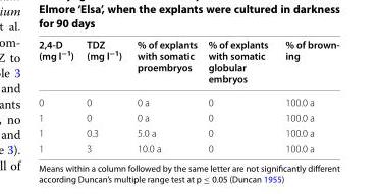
<table><thead><tr><td>2,4‑D (mg l<sup>−1</sup>)</td><td>TDZ (mg l<sup>−1</sup>)</td><td>% of explants with somatic proembryos</td><td>% of explants with somatic globular embryos</td><td>% of brown‑ ing</td></tr></thead><tbody><tr><td>0</td><td>0</td><td>0 a</td><td>0</td><td>100.0 a</td></tr><tr><td>1</td><td>0</td><td>0 a</td><td>0</td><td>100.0 a</td></tr><tr><td>1</td><td>0.3</td><td>5.0 a</td><td>0</td><td>100.0 a</td></tr><tr><td>1</td><td>3</td><td>10.0 a</td><td>0</td><td>100.0 a</td></tr></tbody></table>